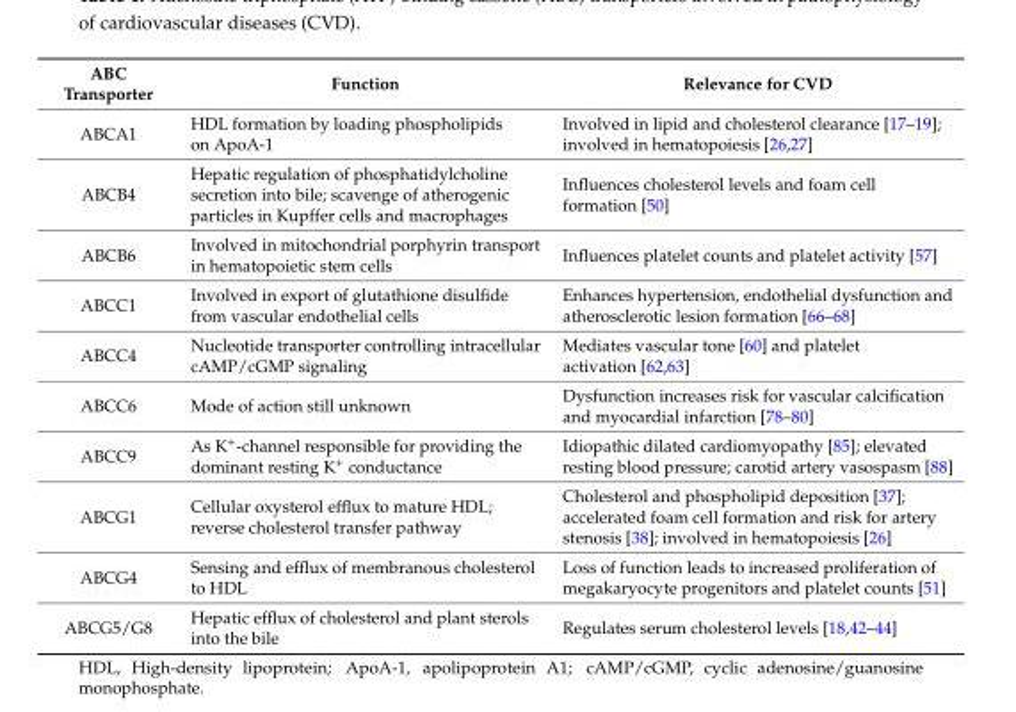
<table><thead><tr><td>ABC Transporter</td><td>Function</td><td>Relevance for CVD</td></tr></thead><tbody><tr><td>ABCA1</td><td>HDL formation by loading phospholipids on ApoA-1</td><td>Involved in lipid and cholesterol clearance [17–19]; involved in hematopoiesis [26,27]</td></tr><tr><td>ABCB4</td><td>Hepatic regulation of phosphatidylcholine secretion into bile; scavenge of atherogenic particles in Kupffer cells and macrophages</td><td>Influences cholesterol levels and foam cell formation [50]</td></tr><tr><td>ABCB6</td><td>Involved in mitochondrial porphyrin transport in hematopoietic stem cells</td><td>Influences platelet counts and platelet activity [57]</td></tr><tr><td>ABCC1</td><td>Involved in export of glutathione disulfide from vascular endothelial cells</td><td>Enhances hypertension, endothelial dysfunction and atherosclerotic lesion formation [66–68]</td></tr><tr><td>ABCC4</td><td>Nucleotide transporter controlling intracellular cAMP/cGMP signaling</td><td>Mediates vascular tone [60] and platelet activation [62,63]</td></tr><tr><td>ABCC6</td><td>Mode of action still unknown</td><td>Dysfunction increases risk for vascular calcification and myocardial infarction [78–80]</td></tr><tr><td>ABCC9</td><td>As K<sup>+</sup>-channel responsible for providing the dominant resting K<sup>+</sup> conductance</td><td>Idiopathic dilated cardiomyopathy [85]; elevated resting blood pressure; carotid artery vasospasm [88]</td></tr><tr><td>ABCG1</td><td>Cellular oxysterol efflux to mature HDL; reverse cholesterol transfer pathway</td><td>Cholesterol and phospholipid deposition [37]; accelerated foam cell formation and risk for artery stenosis [38]; involved in hematopoiesis [26]</td></tr><tr><td>ABCG4</td><td>Sensing and efflux of membranous cholesterol to HDL</td><td>Loss of function leads to increased proliferation of megakaryocyte progenitors and platelet counts [51]</td></tr><tr><td>ABCG5/G8</td><td>Hepatic efflux of cholesterol and plant sterols into the bile</td><td>Regulates serum cholesterol levels [18,42–44]</td></tr></tbody></table>